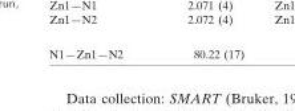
<table><tbody><tr><td>N1—Zn1—N2</td><td>80.22 (17)</td></tr></tbody></table>